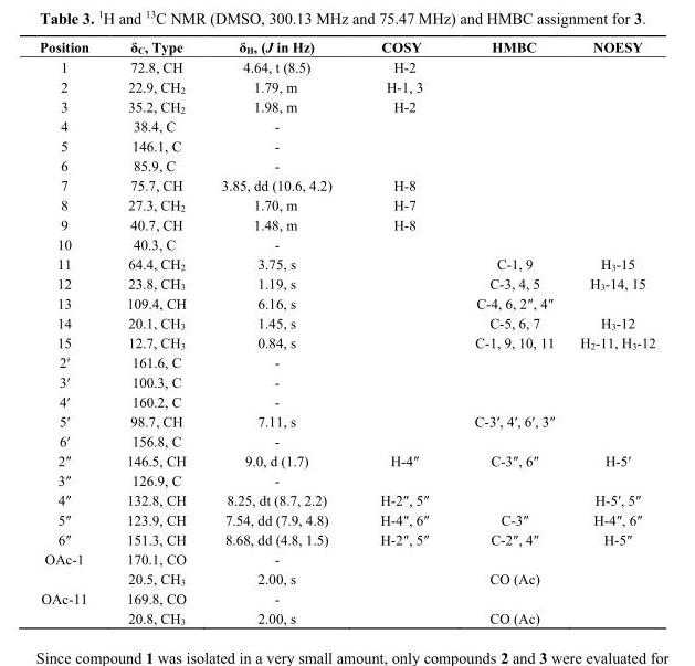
<table><thead><tr><td>Position</td><td>δ<sub>C</sub>, Type</td><td>δ<sub>H</sub>, (J in Hz)</td><td>COSY</td><td>HMBC</td><td>NOESY</td></tr></thead><tbody><tr><td>1</td><td>72.8, CH</td><td>4.64, t (8.5)</td><td>H-2</td><td></td><td></td></tr><tr><td>2</td><td>22.9, CH<sub>2</sub></td><td>1.79, m</td><td>H-1, 3</td><td></td><td></td></tr><tr><td>3</td><td>35.2, CH<sub>2</sub></td><td>1.98, m</td><td>H-2</td><td></td><td></td></tr><tr><td>4</td><td>38.4, C</td><td>-</td><td></td><td></td><td></td></tr><tr><td>5</td><td>146.1, C</td><td>-</td><td></td><td></td><td></td></tr><tr><td>6</td><td>85.9, C</td><td>-</td><td></td><td></td><td></td></tr><tr><td>7</td><td>75.7, CH</td><td>3.85, dd (10.6, 4.2)</td><td>H-8</td><td></td><td></td></tr><tr><td>8</td><td>27.3, CH<sub>2</sub></td><td>1.70, m</td><td>H-7</td><td></td><td></td></tr><tr><td>9</td><td>40.7, CH</td><td>1.48, m</td><td>H-8</td><td></td><td></td></tr><tr><td>10</td><td>40.3, C</td><td>-</td><td></td><td></td><td></td></tr><tr><td>11</td><td>64.4, CH<sub>2</sub></td><td>3.75, s</td><td></td><td>C-1, 9</td><td>H<sub>3</sub>-15</td></tr><tr><td>12</td><td>23.8, CH<sub>3</sub></td><td>1.19, s</td><td></td><td>C-3, 4, 5</td><td>H<sub>3</sub>-14, 15</td></tr><tr><td>13</td><td>109.4, CH</td><td>6.16, s</td><td></td><td>C-4, 6, 2″, 4″</td><td></td></tr><tr><td>14</td><td>20.1, CH<sub>3</sub></td><td>1.45, s</td><td></td><td>C-5, 6, 7</td><td>H<sub>3</sub>-12</td></tr><tr><td>15</td><td>12.7, CH<sub>3</sub></td><td>0.84, s</td><td></td><td>C-1, 9, 10, 11</td><td>H<sub>2</sub>-11, H<sub>3</sub>-12</td></tr><tr><td>2′</td><td>161.6, C</td><td>-</td><td></td><td></td><td></td></tr><tr><td>3′</td><td>100.3, C</td><td>-</td><td></td><td></td><td></td></tr><tr><td>4′</td><td>160.2, C</td><td>-</td><td></td><td></td><td></td></tr><tr><td>5′</td><td>98.7, CH</td><td>7.11, s</td><td></td><td>C-3′, 4′, 6′, 3″</td><td></td></tr><tr><td>6′</td><td>156.8, C</td><td>-</td><td></td><td></td><td></td></tr><tr><td>2″</td><td>146.5, CH</td><td>9.0, d (1.7)</td><td>H-4″</td><td>C-3″, 6″</td><td>H-5′</td></tr><tr><td>3″</td><td>126.9, C</td><td>-</td><td></td><td></td><td></td></tr><tr><td>4″</td><td>132.8, CH</td><td>8.25, dt (8.7, 2.2)</td><td>H-2″, 5″</td><td></td><td>H-5′, 5″</td></tr><tr><td>5″</td><td>123.9, CH</td><td>7.54, dd (7.9, 4.8)</td><td>H-4″, 6″</td><td>C-3″</td><td>H-4″, 6″</td></tr><tr><td>6″</td><td>151.3, CH</td><td>8.68, dd (4.8, 1.5)</td><td>H-2″, 5″</td><td>C-2″, 4″</td><td>H-5″</td></tr><tr><td rowspan="2">OAc-1</td><td>170.1, CO</td><td>-</td><td></td><td></td><td></td></tr><tr><td>20.5, CH<sub>3</sub></td><td>2.00, s</td><td></td><td>CO (Ac)</td><td></td></tr><tr><td rowspan="2">OAc-11</td><td>169.8, CO</td><td>-</td><td></td><td></td><td></td></tr><tr><td>20.8, CH<sub>3</sub></td><td>2.00, s</td><td></td><td>CO (Ac)</td><td></td></tr></tbody></table>